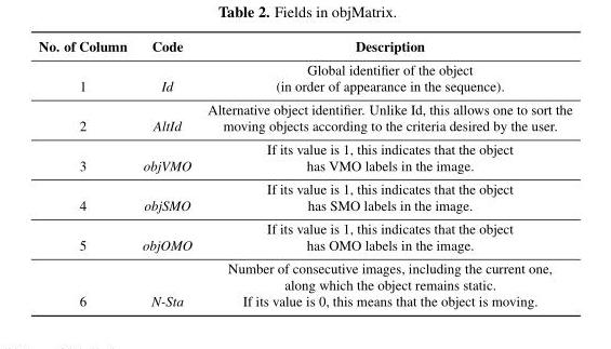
<table><thead><tr><td>No. of Column</td><td>Code</td><td>Description</td></tr></thead><tbody><tr><td>1</td><td>Id</td><td>Global identifier of the object (in order of appearance in the sequence).</td></tr><tr><td>2</td><td>AltId</td><td>Alternative object identifier. Unlike Id, this allows one to sort the moving objects according to the criteria desired by the user.</td></tr><tr><td>3</td><td>objVMO</td><td>If its value is 1, this indicates that the object has VMO labels in the image.</td></tr><tr><td>4</td><td>objSMO</td><td>If its value is 1, this indicates that the object has SMO labels in the image.</td></tr><tr><td>5</td><td>objOMO</td><td>If its value is 1, this indicates that the object has OMO labels in the image.</td></tr><tr><td>6</td><td>N-Sta</td><td>Number of consecutive images, including the current one, along which the object remains static. If its value is 0, this means that the object is moving.</td></tr></tbody></table>